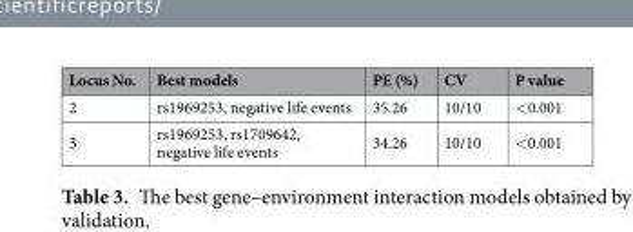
<table><thead><tr><td>Locus No.</td><td>Best models</td><td>PE (%)</td><td>CV</td><td>P value</td></tr></thead><tbody><tr><td>2</td><td>rs1969253, negative life events</td><td>35.26</td><td>10/10</td><td>&lt;0.001</td></tr><tr><td>3</td><td>rs1969253, rs1709642, negative life events</td><td>34.26</td><td>10/10</td><td>&lt;0.001</td></tr></tbody></table>